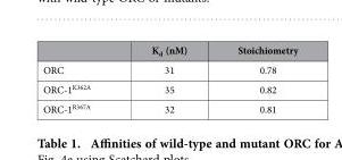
<table><thead><tr><td></td><td>K<sub>d</sub> (nM)</td><td>Stoichiometry</td></tr></thead><tbody><tr><td>ORC</td><td>31</td><td>0.78</td></tr><tr><td>ORC-1<sup>K362A</sup></td><td>35</td><td>0.82</td></tr><tr><td>ORC-1<sup>R367A</sup></td><td>32</td><td>0.81</td></tr></tbody></table>